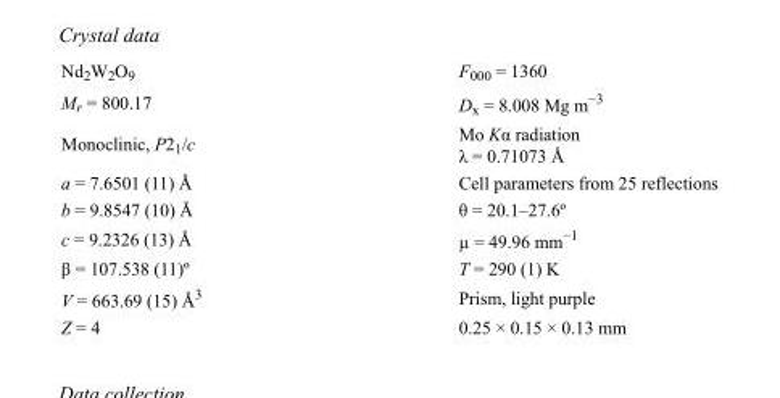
<table><tbody><tr><td>Nd<sub>2</sub>W<sub>2</sub>O<sub>9</sub></td><td>F<sub>000</sub> = 1360</td></tr><tr><td>M<sub>r</sub> = 800.17</td><td>D<sub>x</sub> = 8.008 Mg m<sup>−3</sup></td></tr><tr><td>Monoclinic, P2<sub>1</sub>/c</td><td>Mo Kα radiation λ = 0.71073 Å</td></tr><tr><td>a = 7.6501 (11) Å</td><td>Cell parameters from 25 reflections</td></tr><tr><td>b = 9.8547 (10) Å</td><td>θ = 20.1–27.6º</td></tr><tr><td>c = 9.2326 (13) Å</td><td>µ = 49.96 mm<sup>−1</sup></td></tr><tr><td>β = 107.538 (11)º</td><td>T = 290 (1) K</td></tr><tr><td>V = 663.69 (15) Å<sup>3</sup></td><td>Prism, light purple</td></tr><tr><td>Z = 4</td><td>0.25 × 0.15 × 0.13 mm</td></tr></tbody></table>